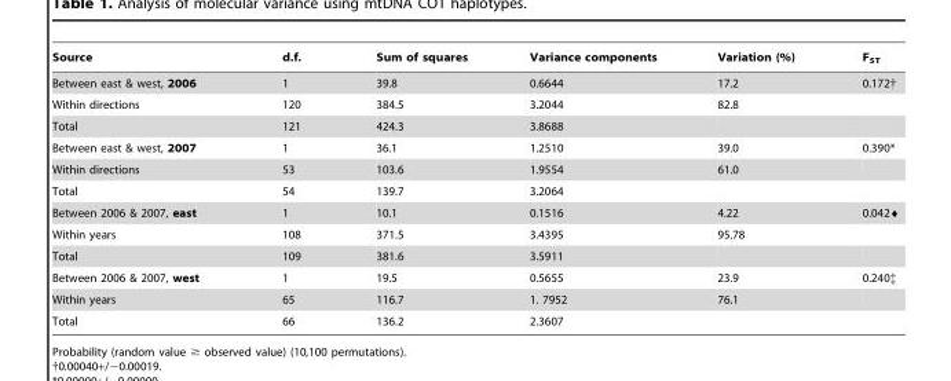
<table><thead><tr><td>Source</td><td>d.f.</td><td>Sum of squares</td><td>Variance components</td><td>Variation (%)</td><td>F<sub>ST</sub></td></tr></thead><tbody><tr><td>Between east &amp; west, 2006</td><td>1</td><td>39.8</td><td>0.6644</td><td>17.2</td><td>0.172†</td></tr><tr><td>Within directions</td><td>120</td><td>384.5</td><td>3.2044</td><td>82.8</td><td></td></tr><tr><td>Total</td><td>121</td><td>424.3</td><td>3.8688</td><td></td><td></td></tr><tr><td>Between east &amp; west, 2007</td><td>1</td><td>36.1</td><td>1.2510</td><td>39.0</td><td>0.390*</td></tr><tr><td>Within directions</td><td>53</td><td>103.6</td><td>1.9554</td><td>61.0</td><td></td></tr><tr><td>Total</td><td>54</td><td>139.7</td><td>3.2064</td><td></td><td></td></tr><tr><td>Between 2006 &amp; 2007, east</td><td>1</td><td>10.1</td><td>0.1516</td><td>4.22</td><td>0.042¤</td></tr><tr><td>Within years</td><td>108</td><td>371.5</td><td>3.4395</td><td>95.78</td><td></td></tr><tr><td>Total</td><td>109</td><td>381.6</td><td>3.5911</td><td></td><td></td></tr><tr><td>Between 2006 &amp; 2007, west</td><td>1</td><td>19.5</td><td>0.5655</td><td>23.9</td><td>0.240‡</td></tr><tr><td>Within years</td><td>65</td><td>116.7</td><td>1. 7952</td><td>76.1</td><td></td></tr><tr><td>Total</td><td>66</td><td>136.2</td><td>2.3607</td><td></td><td></td></tr></tbody></table>